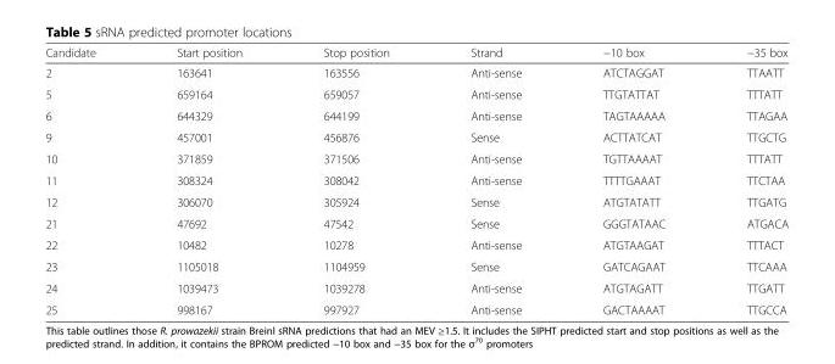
<table><thead><tr><td>Candidate</td><td>Start position</td><td>Stop position</td><td>Strand</td><td>−10 box</td><td>−35 box</td></tr></thead><tbody><tr><td>2</td><td>163641</td><td>163556</td><td>Anti-sense</td><td>ATCTAGGAT</td><td>TTAATT</td></tr><tr><td>5</td><td>659164</td><td>659057</td><td>Anti-sense</td><td>TTGTATTAT</td><td>TTTATT</td></tr><tr><td>6</td><td>644329</td><td>644199</td><td>Anti-sense</td><td>TAGTAAAAA</td><td>TTAGAA</td></tr><tr><td>9</td><td>457001</td><td>456876</td><td>Sense</td><td>ACTTATCAT</td><td>TTGCTG</td></tr><tr><td>10</td><td>371859</td><td>371506</td><td>Anti-sense</td><td>TGTTAAAAT</td><td>TTTATT</td></tr><tr><td>11</td><td>308324</td><td>308042</td><td>Anti-sense</td><td>TTTTGAAAT</td><td>TTCTAA</td></tr><tr><td>12</td><td>306070</td><td>305924</td><td>Sense</td><td>ATGTATATT</td><td>TTGATG</td></tr><tr><td>21</td><td>47692</td><td>47542</td><td>Sense</td><td>GGGTATAAC</td><td>ATGACA</td></tr><tr><td>22</td><td>10482</td><td>10278</td><td>Anti-sense</td><td>ATGTAAGAT</td><td>TTTACT</td></tr><tr><td>23</td><td>1105018</td><td>1104959</td><td>Sense</td><td>GATCAGAAT</td><td>TTCAAA</td></tr><tr><td>24</td><td>1039473</td><td>1039278</td><td>Anti-sense</td><td>ATGTAGATT</td><td>TTGATT</td></tr><tr><td>25</td><td>998167</td><td>997927</td><td>Anti-sense</td><td>GACTAAAAT</td><td>TTGCCA</td></tr></tbody></table>